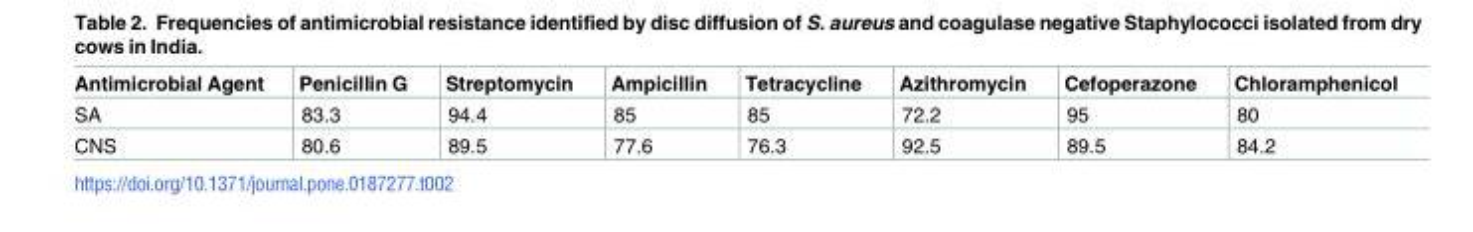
<table><thead><tr><td>Antimicrobial Agent</td><td>Penicillin G</td><td>Streptomycin</td><td>Ampicillin</td><td>Tetracycline</td><td>Azithromycin</td><td>Cefoperazone</td><td>Chloramphenicol</td></tr></thead><tbody><tr><td>SA</td><td>83.3</td><td>94.4</td><td>85</td><td>85</td><td>72.2</td><td>95</td><td>80</td></tr><tr><td>CNS</td><td>80.6</td><td>89.5</td><td>77.6</td><td>76.3</td><td>92.5</td><td>89.5</td><td>84.2</td></tr></tbody></table>